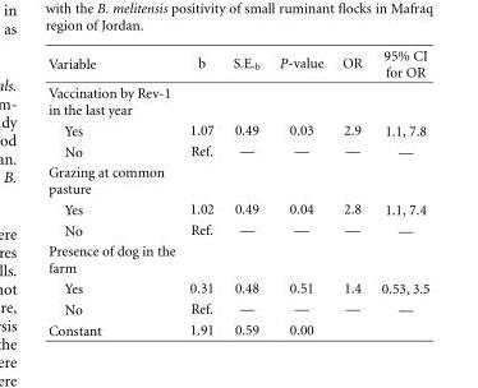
<table><thead><tr><td>Variable</td><td>b</td><td>S.E.<sub>b</sub></td><td>P-value</td><td>OR</td><td>95% CI for OR</td></tr></thead><tbody><tr><td colspan="6">Vaccination by Rev-1 in the last year</td></tr><tr><td>Yes</td><td>1.07</td><td>0.49</td><td>0.03</td><td>2.9</td><td>1.1, 7.8</td></tr><tr><td>No</td><td>Ref.</td><td>—</td><td>—</td><td>—</td><td>—</td></tr><tr><td colspan="6">Grazing at common pasture</td></tr><tr><td>Yes</td><td>1.02</td><td>0.49</td><td>0.04</td><td>2.8</td><td>1.1, 7.4</td></tr><tr><td>No</td><td>Ref.</td><td>—</td><td>—</td><td>—</td><td>—</td></tr><tr><td colspan="6">Presence of dog in the farm</td></tr><tr><td>Yes</td><td>0.31</td><td>0.48</td><td>0.51</td><td>1.4</td><td>0.53, 3.5</td></tr><tr><td>No</td><td>Ref.</td><td>—</td><td>—</td><td>—</td><td>—</td></tr><tr><td>Constant</td><td>1.91</td><td>0.59</td><td>0.00</td><td></td><td></td></tr></tbody></table>